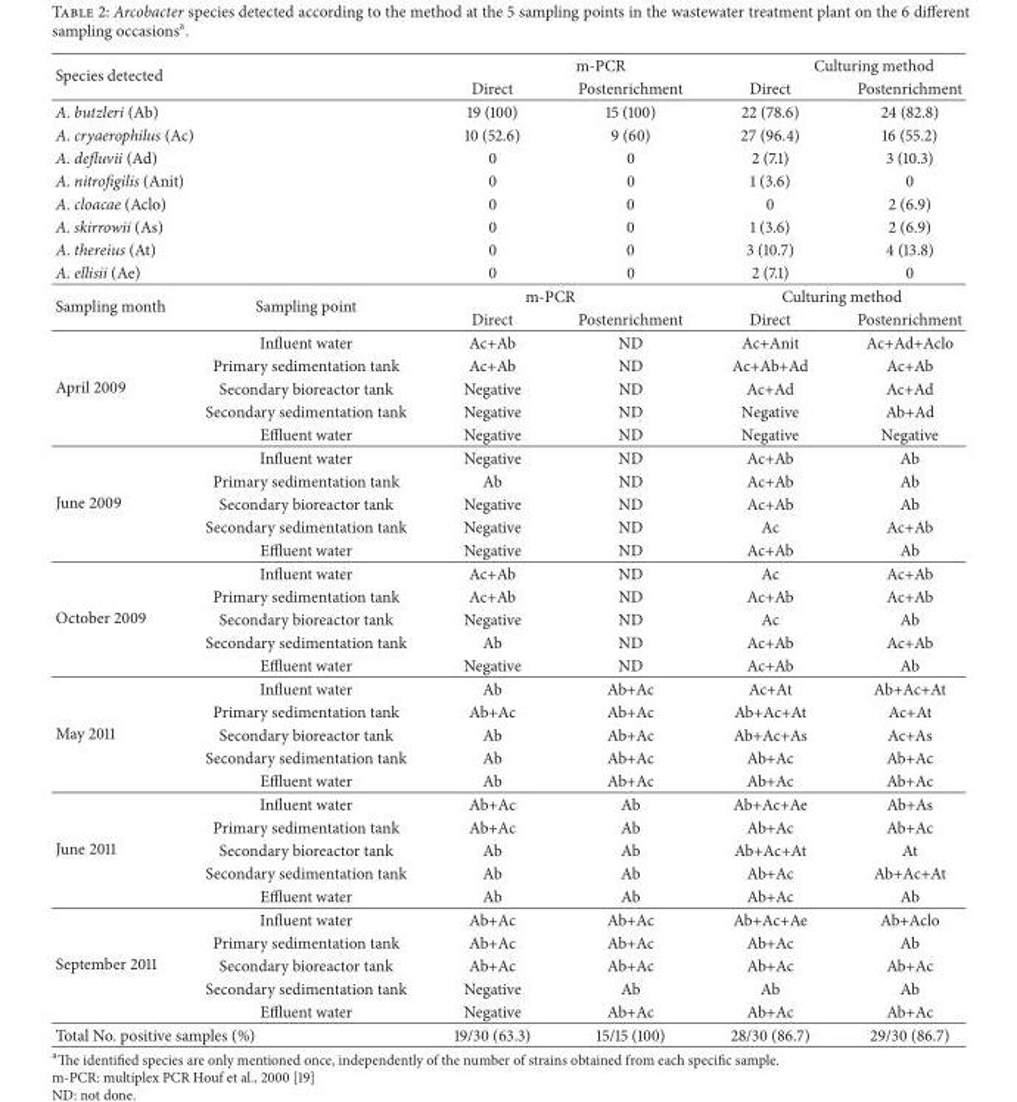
<table><thead><tr><td rowspan="2" colspan="2">Species detected</td><td colspan="2">m-PCR</td><td colspan="2">Culturing method</td></tr><tr><td>Direct</td><td>Postenrichment</td><td>Direct</td><td>Postenrichment</td></tr></thead><tbody><tr><td colspan="2">A. butzleri (Ab)</td><td>19 (100)</td><td>15 (100)</td><td>22 (78.6)</td><td>24 (82.8)</td></tr><tr><td colspan="2">A. cryaerophilus (Ac)</td><td>10 (52.6)</td><td>9 (60)</td><td>27 (96.4)</td><td>16 (55.2)</td></tr><tr><td colspan="2">A. defluvii (Ad)</td><td>0</td><td>0</td><td>2 (7.1)</td><td>3 (10.3)</td></tr><tr><td colspan="2">A. nitrofigilis (Anit)</td><td>0</td><td>0</td><td>1 (3.6)</td><td>0</td></tr><tr><td colspan="2">A. cloacae (Aclo)</td><td>0</td><td>0</td><td>0</td><td>2 (6.9)</td></tr><tr><td colspan="2">A. skirrowii (As)</td><td>0</td><td>0</td><td>1 (3.6)</td><td>2 (6.9)</td></tr><tr><td colspan="2">A. thereius (At)</td><td>0</td><td>0</td><td>3 (10.7)</td><td>4 (13.8)</td></tr><tr><td colspan="2">A. ellisii (Ae)</td><td>0</td><td>0</td><td>2 (7.1)</td><td>0</td></tr><tr><td rowspan="2">Sampling month</td><td rowspan="2">Sampling point</td><td colspan="2">m-PCR</td><td colspan="2">Culturing method</td></tr><tr><td>Direct</td><td>Postenrichment</td><td>Direct</td><td>Postenrichment</td></tr><tr><td rowspan="5">April 2009</td><td>Influent water</td><td>Ac+Ab</td><td>ND</td><td>Ac+Anit</td><td>Ac+Ad+Aclo</td></tr><tr><td>Primary sedimentation tank</td><td>Ac+Ab</td><td>ND</td><td>Ac+Ab+Ad</td><td>Ac+Ab</td></tr><tr><td>Secondary bioreactor tank</td><td>Negative</td><td>ND</td><td>Ac+Ad</td><td>Ac+Ad</td></tr><tr><td>Secondary sedimentation tank</td><td>Negative</td><td>ND</td><td>Negative</td><td>Ab+Ad</td></tr><tr><td>Effluent water</td><td>Negative</td><td>ND</td><td>Negative</td><td>Negative</td></tr><tr><td rowspan="5">June 2009</td><td>Influent water</td><td>Negative</td><td>ND</td><td>Ac+Ab</td><td>Ab</td></tr><tr><td>Primary sedimentation tank</td><td>Ab</td><td>ND</td><td>Ac+Ab</td><td>Ab</td></tr><tr><td>Secondary bioreactor tank</td><td>Negative</td><td>ND</td><td>Ac+Ab</td><td>Ab</td></tr><tr><td>Secondary sedimentation tank</td><td>Negative</td><td>ND</td><td>Ac</td><td>Ac+Ab</td></tr><tr><td>Effluent water</td><td>Negative</td><td>ND</td><td>Ac+Ab</td><td>Ab</td></tr><tr><td rowspan="5">October 2009</td><td>Influent water</td><td>Ac+Ab</td><td>ND</td><td>Ac</td><td>Ac+Ab</td></tr><tr><td>Primary sedimentation tank</td><td>Ac+Ab</td><td>ND</td><td>Ac+Ab</td><td>Ac+Ab</td></tr><tr><td>Secondary bioreactor tank</td><td>Negative</td><td>ND</td><td>Ac</td><td>Ab</td></tr><tr><td>Secondary sedimentation tank</td><td>Ab</td><td>ND</td><td>Ac+Ab</td><td>Ac+Ab</td></tr><tr><td>Effluent water</td><td>Negative</td><td>ND</td><td>Ac+Ab</td><td>Ab</td></tr><tr><td rowspan="5">May 2011</td><td>Influent water</td><td>Ab</td><td>Ab+Ac</td><td>Ac+At</td><td>Ab+Ac+At</td></tr><tr><td>Primary sedimentation tank</td><td>Ab+Ac</td><td>Ab+Ac</td><td>Ab+Ac+At</td><td>Ac+At</td></tr><tr><td>Secondary bioreactor tank</td><td>Ab</td><td>Ab+Ac</td><td>Ab+Ac+As</td><td>Ac+As</td></tr><tr><td>Secondary sedimentation tank</td><td>Ab</td><td>Ab+Ac</td><td>Ab+Ac</td><td>Ab+Ac</td></tr><tr><td>Effluent water</td><td>Ab</td><td>Ab+Ac</td><td>Ab+Ac</td><td>Ab+Ac</td></tr><tr><td rowspan="5">June 2011</td><td>Influent water</td><td>Ab+Ac</td><td>Ab</td><td>Ab+Ac+Ae</td><td>Ab+As</td></tr><tr><td>Primary sedimentation tank</td><td>Ab+Ac</td><td>Ab</td><td>Ab+Ac</td><td>Ab+Ac</td></tr><tr><td>Secondary bioreactor tank</td><td>Ab</td><td>Ab</td><td>Ab+Ac+At</td><td>At</td></tr><tr><td>Secondary sedimentation tank</td><td>Ab</td><td>Ab</td><td>Ab+Ac</td><td>Ab+Ac+At</td></tr><tr><td>Effluent water</td><td>Ab</td><td>Ab</td><td>Ab+Ac</td><td>Ab</td></tr><tr><td rowspan="5">September 2011</td><td>Influent water</td><td>Ab+Ac</td><td>Ab+Ac</td><td>Ab+Ac+Ae</td><td>Ab+Aclo</td></tr><tr><td>Primary sedimentation tank</td><td>Ab+Ac</td><td>Ab+Ac</td><td>Ab+Ac</td><td>Ab</td></tr><tr><td>Secondary bioreactor tank</td><td>Ab+Ac</td><td>Ab+Ac</td><td>Ab+Ac</td><td>Ab+Ac</td></tr><tr><td>Secondary sedimentation tank</td><td>Negative</td><td>Ab</td><td>Ab</td><td>Ab</td></tr><tr><td>Effluent water</td><td>Negative</td><td>Ab+Ac</td><td>Ab+Ac</td><td>Ab+Ac</td></tr><tr><td colspan="2">Total No. positive samples (%)</td><td>19/30 (63.3)</td><td>15/15 (100)</td><td>28/30 (86.7)</td><td>29/30 (86.7)</td></tr></tbody></table>